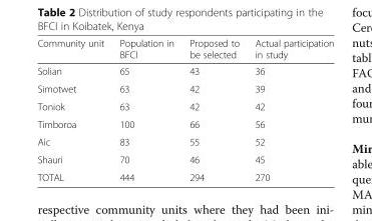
<table><thead><tr><td>Community unit</td><td>Population in BFCI</td><td>Proposed to be selected</td><td>Actual participation in study</td></tr></thead><tbody><tr><td>Solian</td><td>65</td><td>43</td><td>36</td></tr><tr><td>Simotwet</td><td>63</td><td>42</td><td>39</td></tr><tr><td>Toniok</td><td>63</td><td>42</td><td>42</td></tr><tr><td>Timboroa</td><td>100</td><td>66</td><td>56</td></tr><tr><td>Aic</td><td>83</td><td>55</td><td>52</td></tr><tr><td>Shauri</td><td>70</td><td>46</td><td>45</td></tr><tr><td>TOTAL</td><td>444</td><td>294</td><td>270</td></tr></tbody></table>